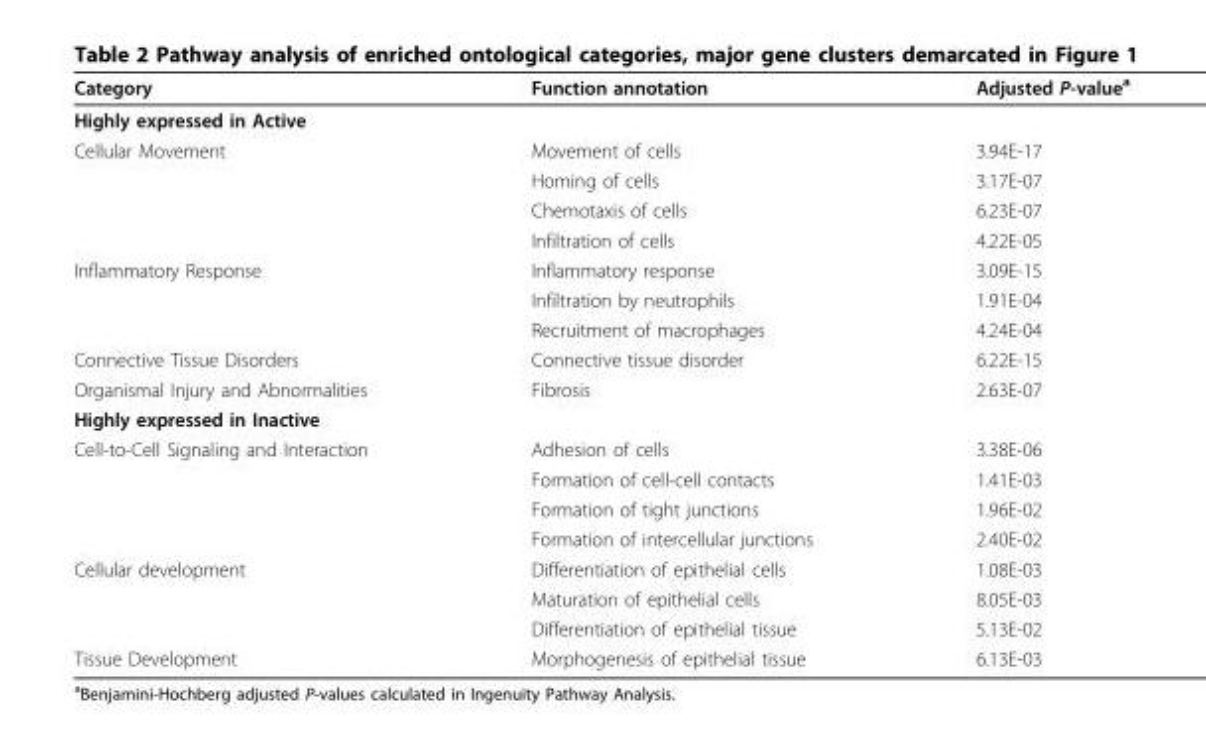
<table><thead><tr><td>Category</td><td>Function annotation</td><td>Adjusted P-value<sup>a</sup></td></tr></thead><tbody><tr><td colspan="3">Highly expressed in Active</td></tr><tr><td rowspan="4">Cellular Movement</td><td>Movement of cells</td><td>3.94E-17</td></tr><tr><td>Homing of cells</td><td>3.17E-07</td></tr><tr><td>Chemotaxis of cells</td><td>6.23E-07</td></tr><tr><td>Infiltration of cells</td><td>4.22E-05</td></tr><tr><td rowspan="3">Inflammatory Response</td><td>Inflammatory response</td><td>3.09E-15</td></tr><tr><td>Infiltration by neutrophils</td><td>1.91E-04</td></tr><tr><td>Recruitment of macrophages</td><td>4.24E-04</td></tr><tr><td>Connective Tissue Disorders</td><td>Connective tissue disorder</td><td>6.22E-15</td></tr><tr><td>Organismal Injury and Abnormalities</td><td>Fibrosis</td><td>2.63E-07</td></tr><tr><td colspan="3">Highly expressed in Inactive</td></tr><tr><td rowspan="4">Cell-to-Cell Signaling and Interaction</td><td>Adhesion of cells</td><td>3.38E-06</td></tr><tr><td>Formation of cell-cell contacts</td><td>1.41E-03</td></tr><tr><td>Formation of tight junctions</td><td>1.96E-02</td></tr><tr><td>Formation of intercellular junctions</td><td>2.40E-02</td></tr><tr><td rowspan="3">Cellular development</td><td>Differentiation of epithelial cells</td><td>1.08E-03</td></tr><tr><td>Maturation of epithelial cells</td><td>8.05E-03</td></tr><tr><td>Differentiation of epithelial tissue</td><td>5.13E-02</td></tr><tr><td>Tissue Development</td><td>Morphogenesis of epithelial tissue</td><td>6.13E-03</td></tr></tbody></table>